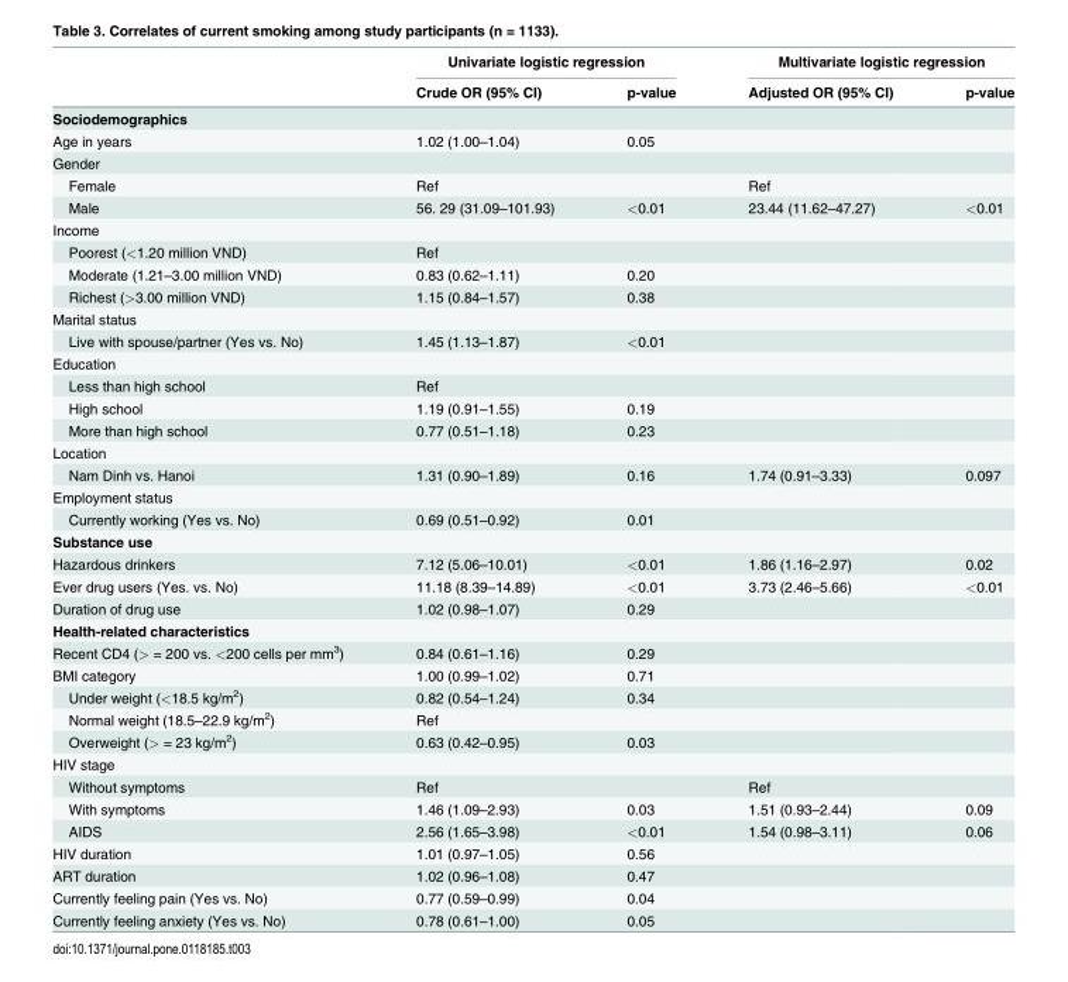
<table><thead><tr><td rowspan="2"></td><td colspan="2">Univariate logistic regression</td><td colspan="2">Multivariate logistic regression</td></tr><tr><td>Crude OR (95% CI)</td><td>p-value</td><td>Adjusted OR (95% CI)</td><td>p-value</td></tr></thead><tbody><tr><td colspan="5">Sociodemographics</td></tr><tr><td>Age in years</td><td>1.02 (1.00–1.04)</td><td>0.05</td><td></td><td></td></tr><tr><td colspan="5">Gender</td></tr><tr><td>Female</td><td>Ref</td><td></td><td>Ref</td><td></td></tr><tr><td>Male</td><td>56. 29 (31.09–101.93)</td><td>&lt;0.01</td><td>23.44 (11.62–47.27)</td><td>&lt;0.01</td></tr><tr><td colspan="5">Income</td></tr><tr><td>Poorest (&lt;1.20 million VND)</td><td>Ref</td><td></td><td></td><td></td></tr><tr><td>Moderate (1.21–3.00 million VND)</td><td>0.83 (0.62–1.11)</td><td>0.20</td><td></td><td></td></tr><tr><td>Richest (&gt;3.00 million VND)</td><td>1.15 (0.84–1.57)</td><td>0.38</td><td></td><td></td></tr><tr><td colspan="5">Marital status</td></tr><tr><td>Live with spouse/partner (Yes vs. No)</td><td>1.45 (1.13–1.87)</td><td>&lt;0.01</td><td></td><td></td></tr><tr><td colspan="5">Education</td></tr><tr><td>Less than high school</td><td>Ref</td><td></td><td></td><td></td></tr><tr><td>High school</td><td>1.19 (0.91–1.55)</td><td>0.19</td><td></td><td></td></tr><tr><td>More than high school</td><td>0.77 (0.51–1.18)</td><td>0.23</td><td></td><td></td></tr><tr><td colspan="5">Location</td></tr><tr><td>Nam Dinh vs. Hanoi</td><td>1.31 (0.90–1.89)</td><td>0.16</td><td>1.74 (0.91–3.33)</td><td>0.097</td></tr><tr><td colspan="5">Employment status</td></tr><tr><td>Currently working (Yes vs. No)</td><td>0.69 (0.51–0.92)</td><td>0.01</td><td></td><td></td></tr><tr><td colspan="5">Substance use</td></tr><tr><td>Hazardous drinkers</td><td>7.12 (5.06–10.01)</td><td>&lt;0.01</td><td>1.86 (1.16–2.97)</td><td>0.02</td></tr><tr><td>Ever drug users (Yes. vs. No)</td><td>11.18 (8.39–14.89)</td><td>&lt;0.01</td><td>3.73 (2.46–5.66)</td><td>&lt;0.01</td></tr><tr><td>Duration of drug use</td><td>1.02 (0.98–1.07)</td><td>0.29</td><td></td><td></td></tr><tr><td colspan="5">Health-related characteristics</td></tr><tr><td>Recent CD4 (&gt; = 200 vs. &lt;200 cells per mm<sup>3</sup>)</td><td>0.84 (0.61–1.16)</td><td>0.29</td><td></td><td></td></tr><tr><td>BMI category</td><td>1.00 (0.99–1.02)</td><td>0.71</td><td></td><td></td></tr><tr><td>Under weight (&lt;18.5 kg/m<sup>2</sup>)</td><td>0.82 (0.54–1.24)</td><td>0.34</td><td></td><td></td></tr><tr><td>Normal weight (18.5–22.9 kg/m<sup>2</sup>)</td><td>Ref</td><td></td><td></td><td></td></tr><tr><td>Overweight (&gt; = 23 kg/m<sup>2</sup>)</td><td>0.63 (0.42–0.95)</td><td>0.03</td><td></td><td></td></tr><tr><td colspan="5">HIV stage</td></tr><tr><td>Without symptoms</td><td>Ref</td><td></td><td>Ref</td><td></td></tr><tr><td>With symptoms</td><td>1.46 (1.09–2.93)</td><td>0.03</td><td>1.51 (0.93–2.44)</td><td>0.09</td></tr><tr><td>AIDS</td><td>2.56 (1.65–3.98)</td><td>&lt;0.01</td><td>1.54 (0.98–3.11)</td><td>0.06</td></tr><tr><td>HIV duration</td><td>1.01 (0.97–1.05)</td><td>0.56</td><td></td><td></td></tr><tr><td>ART duration</td><td>1.02 (0.96–1.08)</td><td>0.47</td><td></td><td></td></tr><tr><td>Currently feeling pain (Yes vs. No)</td><td>0.77 (0.59–0.99)</td><td>0.04</td><td></td><td></td></tr><tr><td>Currently feeling anxiety (Yes vs. No)</td><td>0.78 (0.61–1.00)</td><td>0.05</td><td></td><td></td></tr></tbody></table>